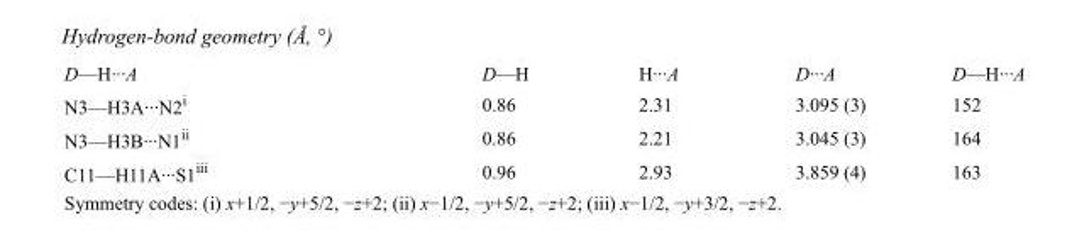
<table><tbody><tr><td>D—H···A</td><td>D—H</td><td>H···A</td><td>D···A</td><td>D—H···A</td></tr><tr><td>N3—H3A···N2<sup>i</sup></td><td>0.86</td><td>2.31</td><td>3.095 (3)</td><td>152</td></tr><tr><td>N3—H3B···N1<sup>ii</sup></td><td>0.86</td><td>2.21</td><td>3.045 (3)</td><td>164</td></tr><tr><td>C11—H11A···S1<sup>iii</sup></td><td>0.96</td><td>2.93</td><td>3.859 (4)</td><td>163</td></tr></tbody></table>